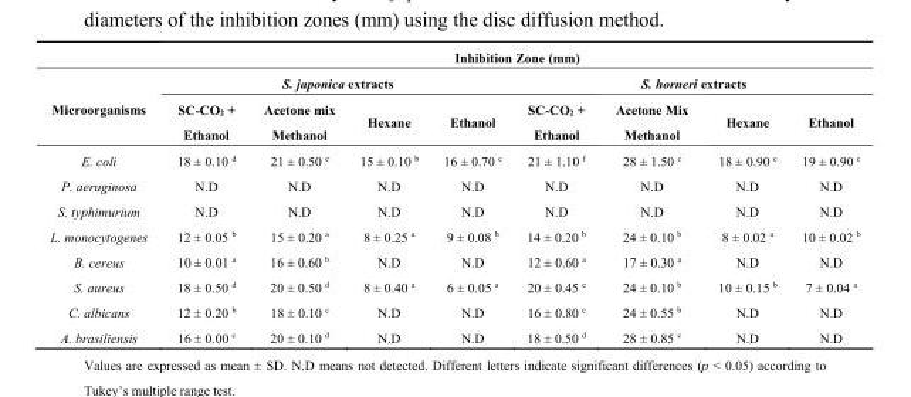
<table><thead><tr><td rowspan="3">Microorganisms</td><td colspan="8">Inhibition Zone (mm)</td></tr><tr><td colspan="4">S. japonica extracts</td><td colspan="4">S. horneri extracts</td></tr><tr><td>SC-CO<sub>2</sub> + Ethanol</td><td>Acetone mix Methanol</td><td>Hexane</td><td>Ethanol</td><td>SC-CO<sub>2</sub> + Ethanol</td><td>Acetone Mix Methanol</td><td>Hexane</td><td>Ethanol</td></tr></thead><tbody><tr><td>E. coli</td><td>18 ± 0.10 <sup>d</sup></td><td>21 ± 0.50 <sup>e</sup></td><td>15 ± 0.10 <sup>b</sup></td><td>16 ± 0.70 <sup>c</sup></td><td>21 ± 1.10 <sup>f</sup></td><td>28 ± 1.50 <sup>c</sup></td><td>18 ± 0.90 <sup>c</sup></td><td>19 ± 0.90 <sup>c</sup></td></tr><tr><td>P. aeruginosa</td><td>N.D</td><td>N.D</td><td>N.D</td><td>N.D</td><td>N.D</td><td>N.D</td><td>N.D</td><td>N.D</td></tr><tr><td>S. typhimurium</td><td>N.D</td><td>N.D</td><td>N.D</td><td>N.D</td><td>N.D</td><td>N.D</td><td>N.D</td><td>N.D</td></tr><tr><td>L. monocytogenes</td><td>12 ± 0.05 <sup>b</sup></td><td>15 ± 0.20 <sup>a</sup></td><td>8 ± 0.25 <sup>a</sup></td><td>9 ± 0.08 <sup>b</sup></td><td>14 ± 0.20 <sup>b</sup></td><td>24 ± 0.10 <sup>b</sup></td><td>8 ± 0.02 <sup>a</sup></td><td>10 ± 0.02 <sup>b</sup></td></tr><tr><td>B. cereus</td><td>10 ± 0.01 <sup>a</sup></td><td>16 ± 0.60 <sup>b</sup></td><td>N.D</td><td>N.D</td><td>12 ± 0.60 <sup>a</sup></td><td>17 ± 0.30 <sup>a</sup></td><td>N.D</td><td>N.D</td></tr><tr><td>S. aureus</td><td>18 ± 0.50 <sup>d</sup></td><td>20 ± 0.50 <sup>d</sup></td><td>8 ± 0.40 <sup>a</sup></td><td>6 ± 0.05 <sup>a</sup></td><td>20 ± 0.45 <sup>e</sup></td><td>24 ± 0.10 <sup>b</sup></td><td>10 ± 0.15 <sup>b</sup></td><td>7 ± 0.04 <sup>a</sup></td></tr><tr><td>C. albicans</td><td>12 ± 0.20 <sup>b</sup></td><td>18 ± 0.10 <sup>c</sup></td><td>N.D</td><td>N.D</td><td>16 ± 0.80 <sup>c</sup></td><td>24 ± 0.55 <sup>b</sup></td><td>N.D</td><td>N.D</td></tr><tr><td>A. brasiliensis</td><td>16 ± 0.00 <sup>c</sup></td><td>20 ± 0.10 <sup>d</sup></td><td>N.D</td><td>N.D</td><td>18 ± 0.50 <sup>d</sup></td><td>28 ± 0.85 <sup>c</sup></td><td>N.D</td><td>N.D</td></tr></tbody></table>